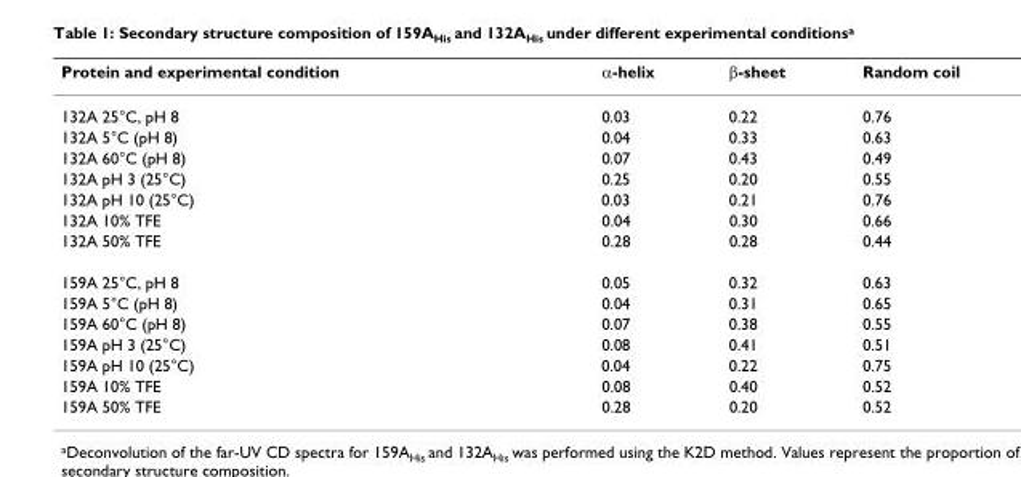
<table><thead><tr><td>Protein and experimental condition</td><td>α-helix</td><td>β-sheet</td><td>Random coil</td></tr></thead><tbody><tr><td>132A 25°C, pH 8</td><td>0.03</td><td>0.22</td><td>0.76</td></tr><tr><td>132A 5°C (pH 8)</td><td>0.04</td><td>0.33</td><td>0.63</td></tr><tr><td>132A 60°C (pH 8)</td><td>0.07</td><td>0.43</td><td>0.49</td></tr><tr><td>132A pH 3 (25°C)</td><td>0.25</td><td>0.20</td><td>0.55</td></tr><tr><td>132A pH 10 (25°C)</td><td>0.03</td><td>0.21</td><td>0.76</td></tr><tr><td>132A 10% TFE</td><td>0.04</td><td>0.30</td><td>0.66</td></tr><tr><td>132A 50% TFE</td><td>0.28</td><td>0.28</td><td>0.44</td></tr><tr><td>159A 25°C, pH 8</td><td>0.05</td><td>0.32</td><td>0.63</td></tr><tr><td>159A 5°C (pH 8)</td><td>0.04</td><td>0.31</td><td>0.65</td></tr><tr><td>159A 60°C (pH 8)</td><td>0.07</td><td>0.38</td><td>0.55</td></tr><tr><td>159A pH 3 (25°C)</td><td>0.08</td><td>0.41</td><td>0.51</td></tr><tr><td>159A pH 10 (25°C)</td><td>0.04</td><td>0.22</td><td>0.75</td></tr><tr><td>159A 10% TFE</td><td>0.08</td><td>0.40</td><td>0.52</td></tr><tr><td>159A 50% TFE</td><td>0.28</td><td>0.20</td><td>0.52</td></tr></tbody></table>